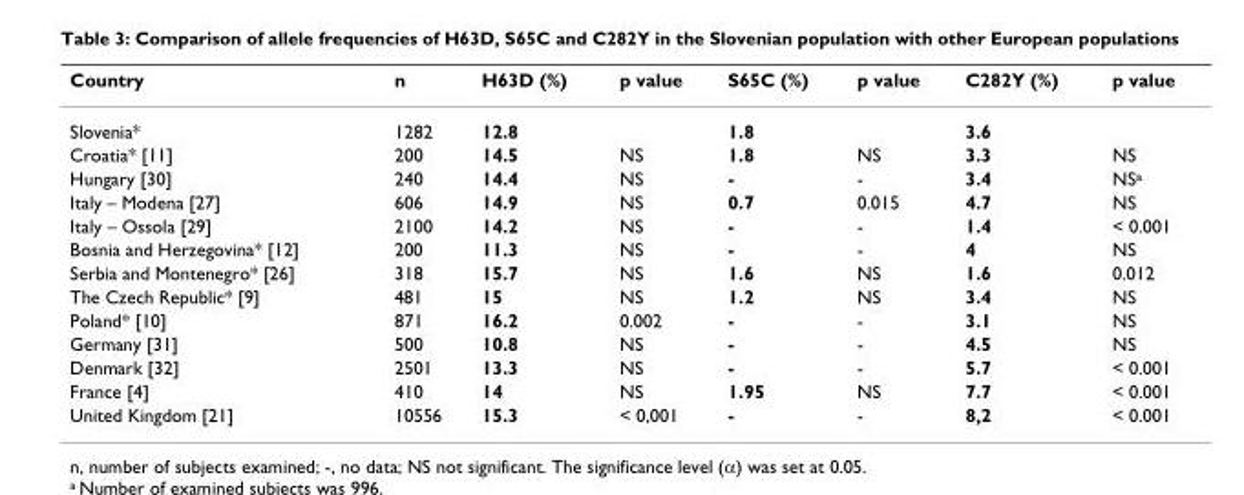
<table><thead><tr><td>Country</td><td>n</td><td>H63D (%)</td><td>p value</td><td>S65C (%)</td><td>p value</td><td>C282Y (%)</td><td>p value</td></tr></thead><tbody><tr><td>Slovenia*</td><td>1282</td><td>12.8</td><td></td><td>1.8</td><td></td><td>3.6</td><td></td></tr><tr><td>Croatia* [11]</td><td>200</td><td>14.5</td><td>NS</td><td>1.8</td><td>NS</td><td>3.3</td><td>NS</td></tr><tr><td>Hungary [30]</td><td>240</td><td>14.4</td><td>NS</td><td>-</td><td>-</td><td>3.4</td><td>NS<sup>a</sup></td></tr><tr><td>Italy – Modena [27]</td><td>606</td><td>14.9</td><td>NS</td><td>0.7</td><td>0.015</td><td>4.7</td><td>NS</td></tr><tr><td>Italy – Ossola [29]</td><td>2100</td><td>14.2</td><td>NS</td><td>-</td><td>-</td><td>1.4</td><td>&lt; 0.001</td></tr><tr><td>Bosnia and Herzegovina* [12]</td><td>200</td><td>11.3</td><td>NS</td><td>-</td><td>-</td><td>4</td><td>NS</td></tr><tr><td>Serbia and Montenegro* [26]</td><td>318</td><td>15.7</td><td>NS</td><td>1.6</td><td>NS</td><td>1.6</td><td>0.012</td></tr><tr><td>The Czech Republic* [9]</td><td>481</td><td>15</td><td>NS</td><td>1.2</td><td>NS</td><td>3.4</td><td>NS</td></tr><tr><td>Poland* [10]</td><td>871</td><td>16.2</td><td>0.002</td><td>-</td><td>-</td><td>3.1</td><td>NS</td></tr><tr><td>Germany [31]</td><td>500</td><td>10.8</td><td>NS</td><td>-</td><td>-</td><td>4.5</td><td>NS</td></tr><tr><td>Denmark [32]</td><td>2501</td><td>13.3</td><td>NS</td><td>-</td><td>-</td><td>5.7</td><td>&lt; 0.001</td></tr><tr><td>France [4]</td><td>410</td><td>14</td><td>NS</td><td>1.95</td><td>NS</td><td>7.7</td><td>&lt; 0.001</td></tr><tr><td>United Kingdom [21]</td><td>10556</td><td>15.3</td><td>&lt; 0,001</td><td>-</td><td>-</td><td>8,2</td><td>&lt; 0.001</td></tr></tbody></table>